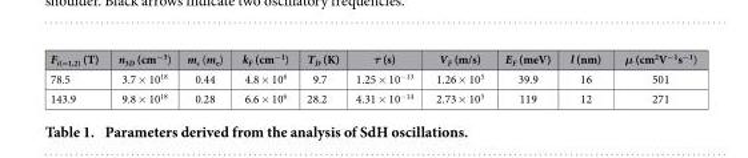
<table><thead><tr><td>F<sub>i(=1,2)</sub> (T)</td><td>n<sub>3D</sub> (cm<sup>−3</sup>)</td><td>m<sub>c</sub> (m<sub>e</sub>)</td><td>k<sub>F</sub> (cm<sup>−1</sup>)</td><td>T<sub>D</sub> (K)</td><td>τ (s)</td><td>V<sub>F</sub> (m/s)</td><td>E<sub>F</sub> (meV)</td><td>l (nm)</td><td>μ (cm<sup>2</sup>V<sup>−1</sup>s<sup>−1</sup>)</td></tr></thead><tbody><tr><td>78.5</td><td>3.7 × 10<sup>18</sup></td><td>0.44</td><td>4.8 × 10<sup>6</sup></td><td>9.7</td><td>1.25 × 10<sup>−13</sup></td><td>1.26 × 10<sup>5</sup></td><td>39.9</td><td>16</td><td>501</td></tr><tr><td>143.9</td><td>9.8 × 10<sup>18</sup></td><td>0.28</td><td>6.6 × 10<sup>6</sup></td><td>28.2</td><td>4.31 × 10<sup>−14</sup></td><td>2.73 × 10<sup>5</sup></td><td>119</td><td>12</td><td>271</td></tr></tbody></table>